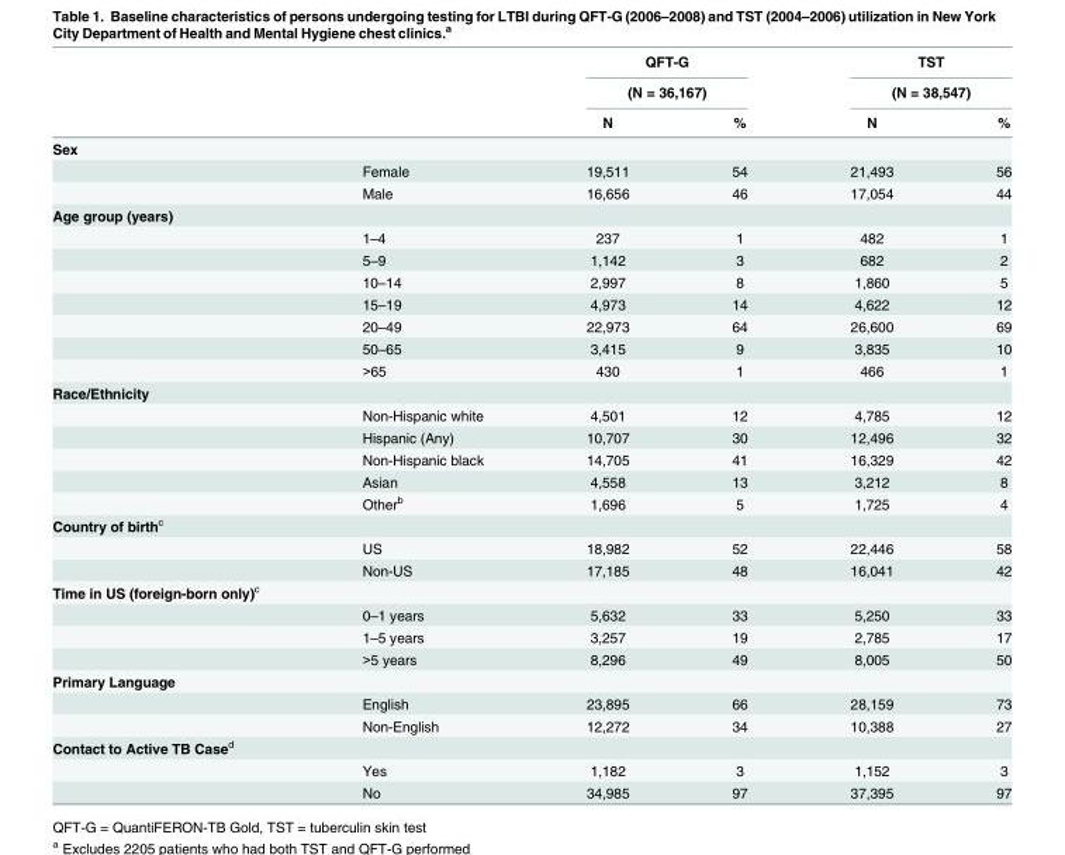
<table><thead><tr><td rowspan="3"></td><td rowspan="3"></td><td rowspan="2" colspan="2">QFT-G (N = 36,167)</td><td rowspan="2" colspan="2">TST (N = 38,547)</td></tr><tr></tr><tr><td>N</td><td>%</td><td>N</td><td>%</td></tr></thead><tbody><tr><td colspan="6">Sex</td></tr><tr><td></td><td>Female</td><td>19,511</td><td>54</td><td>21,493</td><td>56</td></tr><tr><td></td><td>Male</td><td>16,656</td><td>46</td><td>17,054</td><td>44</td></tr><tr><td colspan="6">Age group (years)</td></tr><tr><td></td><td>1–4</td><td>237</td><td>1</td><td>482</td><td>1</td></tr><tr><td></td><td>5–9</td><td>1,142</td><td>3</td><td>682</td><td>2</td></tr><tr><td></td><td>10–14</td><td>2,997</td><td>8</td><td>1,860</td><td>5</td></tr><tr><td></td><td>15–19</td><td>4,973</td><td>14</td><td>4,622</td><td>12</td></tr><tr><td></td><td>20–49</td><td>22,973</td><td>64</td><td>26,600</td><td>69</td></tr><tr><td></td><td>50–65</td><td>3,415</td><td>9</td><td>3,835</td><td>10</td></tr><tr><td></td><td>&gt;65</td><td>430</td><td>1</td><td>466</td><td>1</td></tr><tr><td colspan="6">Race/Ethnicity</td></tr><tr><td></td><td>Non-Hispanic white</td><td>4,501</td><td>12</td><td>4,785</td><td>12</td></tr><tr><td></td><td>Hispanic (Any)</td><td>10,707</td><td>30</td><td>12,496</td><td>32</td></tr><tr><td></td><td>Non-Hispanic black</td><td>14,705</td><td>41</td><td>16,329</td><td>42</td></tr><tr><td></td><td>Asian</td><td>4,558</td><td>13</td><td>3,212</td><td>8</td></tr><tr><td></td><td>Other<sup>b</sup></td><td>1,696</td><td>5</td><td>1,725</td><td>4</td></tr><tr><td colspan="6">Country of birth<sup>c</sup></td></tr><tr><td></td><td>US</td><td>18,982</td><td>52</td><td>22,446</td><td>58</td></tr><tr><td></td><td>Non-US</td><td>17,185</td><td>48</td><td>16,041</td><td>42</td></tr><tr><td colspan="6">Time in US (foreign-born only)<sup>c</sup></td></tr><tr><td></td><td>0–1 years</td><td>5,632</td><td>33</td><td>5,250</td><td>33</td></tr><tr><td></td><td>1–5 years</td><td>3,257</td><td>19</td><td>2,785</td><td>17</td></tr><tr><td></td><td>&gt;5 years</td><td>8,296</td><td>49</td><td>8,005</td><td>50</td></tr><tr><td colspan="6">Primary Language</td></tr><tr><td></td><td>English</td><td>23,895</td><td>66</td><td>28,159</td><td>73</td></tr><tr><td></td><td>Non-English</td><td>12,272</td><td>34</td><td>10,388</td><td>27</td></tr><tr><td colspan="6">Contact to Active TB Case<sup>d</sup></td></tr><tr><td></td><td>Yes</td><td>1,182</td><td>3</td><td>1,152</td><td>3</td></tr><tr><td></td><td>No</td><td>34,985</td><td>97</td><td>37,395</td><td>97</td></tr></tbody></table>